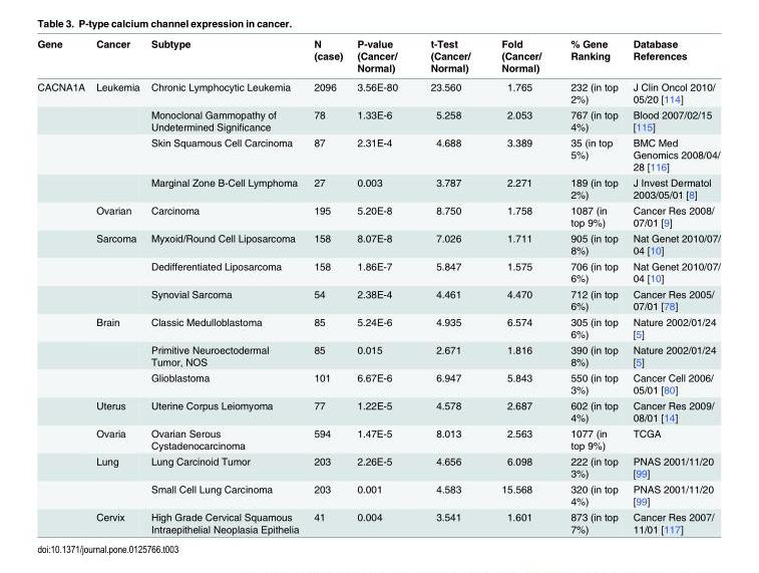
<table><thead><tr><td>Gene</td><td>Cancer</td><td>Subtype</td><td>N (case)</td><td>P-value (Cancer/ Normal)</td><td>t-Test (Cancer/ Normal)</td><td>Fold (Cancer/ Normal)</td><td>% Gene Ranking</td><td>Database References</td></tr></thead><tbody><tr><td rowspan="16">CACNA1A</td><td>Leukemia</td><td>Chronic Lymphocytic Leukemia</td><td>2096</td><td>3.56E-80</td><td>23.560</td><td>1.765</td><td>232 (in top 2%)</td><td>J Clin Oncol 2010/ 05/20 [114]</td></tr><tr><td></td><td>Monoclonal Gammopathy of Undetermined Significance</td><td>78</td><td>1.33E-6</td><td>5.258</td><td>2.053</td><td>767 (in top 4%)</td><td>Blood 2007/02/15 [115]</td></tr><tr><td></td><td>Skin Squamous Cell Carcinoma</td><td>87</td><td>2.31E-4</td><td>4.688</td><td>3.389</td><td>35 (in top 5%)</td><td>BMC Med Genomics 2008/04/ 28 [116]</td></tr><tr><td></td><td>Marginal Zone B-Cell Lymphoma</td><td>27</td><td>0.003</td><td>3.787</td><td>2.271</td><td>189 (in top 2%)</td><td>J Invest Dermatol 2003/05/01 [8]</td></tr><tr><td>Ovarian</td><td>Carcinoma</td><td>195</td><td>5.20E-8</td><td>8.750</td><td>1.758</td><td>1087 (in top 9%)</td><td>Cancer Res 2008/ 07/01 [9]</td></tr><tr><td>Sarcoma</td><td>Myxoid/Round Cell Liposarcoma</td><td>158</td><td>8.07E-8</td><td>7.026</td><td>1.711</td><td>905 (in top 8%)</td><td>Nat Genet 2010/07/ 04 [10]</td></tr><tr><td></td><td>Dedifferentiated Liposarcoma</td><td>158</td><td>1.86E-7</td><td>5.847</td><td>1.575</td><td>706 (in top 6%)</td><td>Nat Genet 2010/07/ 04 [10]</td></tr><tr><td></td><td>Synovial Sarcoma</td><td>54</td><td>2.38E-4</td><td>4.461</td><td>4.470</td><td>712 (in top 6%)</td><td>Cancer Res 2005/ 07/01 [78]</td></tr><tr><td>Brain</td><td>Classic Medulloblastoma</td><td>85</td><td>5.24E-6</td><td>4.935</td><td>6.574</td><td>305 (in top 6%)</td><td>Nature 2002/01/24 [5]</td></tr><tr><td></td><td>Primitive Neuroectodermal Tumor, NOS</td><td>85</td><td>0.015</td><td>2.671</td><td>1.816</td><td>390 (in top 8%)</td><td>Nature 2002/01/24 [5]</td></tr><tr><td></td><td>Glioblastoma</td><td>101</td><td>6.67E-6</td><td>6.947</td><td>5.843</td><td>550 (in top 3%)</td><td>Cancer Cell 2006/ 05/01 [80]</td></tr><tr><td>Uterus</td><td>Uterine Corpus Leiomyoma</td><td>77</td><td>1.22E-5</td><td>4.578</td><td>2.687</td><td>602 (in top 4%)</td><td>Cancer Res 2009/ 08/01 [14]</td></tr><tr><td>Ovaria</td><td>Ovarian Serous Cystadenocarcinoma</td><td>594</td><td>1.47E-5</td><td>8.013</td><td>2.563</td><td>1077 (in top 9%)</td><td>TCGA</td></tr><tr><td>Lung</td><td>Lung Carcinoid Tumor</td><td>203</td><td>2.26E-5</td><td>4.656</td><td>6.098</td><td>222 (in top 3%)</td><td>PNAS 2001/11/20 [99]</td></tr><tr><td></td><td>Small Cell Lung Carcinoma</td><td>203</td><td>0.001</td><td>4.583</td><td>15.568</td><td>320 (in top 4%)</td><td>PNAS 2001/11/20 [99]</td></tr><tr><td>Cervix</td><td>High Grade Cervical Squamous Intraepithelial Neoplasia Epithelia</td><td>41</td><td>0.004</td><td>3.541</td><td>1.601</td><td>873 (in top 7%)</td><td>Cancer Res 2007/ 11/01 [117]</td></tr></tbody></table>